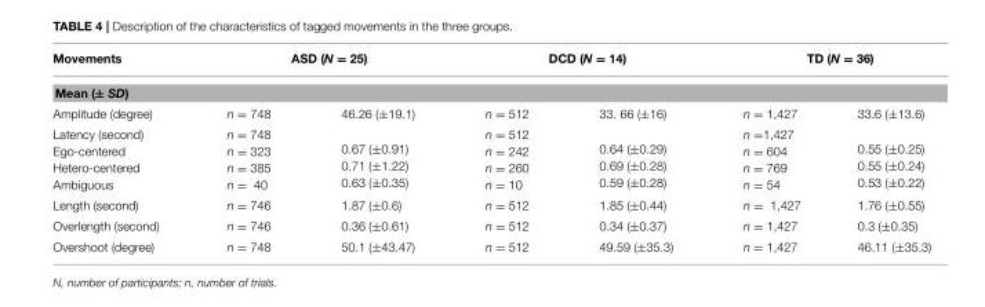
<table><thead><tr><td>Movements</td><td colspan="2">ASD (N = 25)</td><td colspan="2">DCD (N = 14)</td><td colspan="2">TD (N = 36)</td></tr><tr><td colspan="7">Mean (± SD)</td></tr><tr><td>Amplitude (degree)</td><td>n = 748</td><td>46.26 (±19.1)</td><td>n = 512</td><td>33. 66 (±16)</td><td>n = 1,427</td><td>33.6 (±13.6)</td></tr></thead><tbody><tr><td>Latency (second) Ego-centered Hetero-centered Ambiguous</td><td>n = 748 n = 323 n = 385 n = 40</td><td>0.67 (±0.91) 0.71 (±1.22) 0.63 (±0.35)</td><td>n = 512 n = 242 n = 260 n = 10</td><td>0.64 (±0.29) 0.69 (±0.28) 0.59 (±0.28)</td><td>n =1,427 n = 604 n = 769 n = 54</td><td>0.55 (±0.25) 0.55 (±0.24) 0.53 (±0.22)</td></tr><tr><td>Length (second)</td><td>n = 746</td><td>1.87 (±0.6)</td><td>n = 512</td><td>1.85 (±0.44)</td><td>n = 1,427</td><td>1.76 (±0.55)</td></tr><tr><td>Overlength (second)</td><td>n = 746</td><td>0.36 (±0.61)</td><td>n = 512</td><td>0.34 (±0.37)</td><td>n = 1,427</td><td>0.3 (±0.35)</td></tr><tr><td>Overshoot (degree)</td><td>n = 748</td><td>50.1 (±43.47)</td><td>n = 512</td><td>49.59 (±35.3)</td><td>n = 1,427</td><td>46.11 (±35.3)</td></tr></tbody></table>